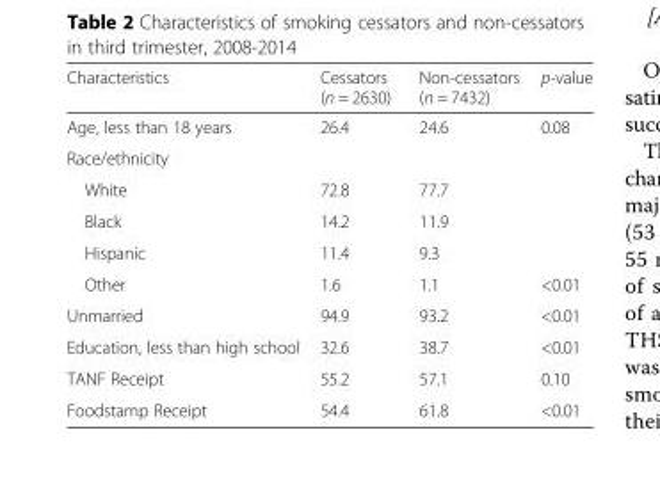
<table><thead><tr><td>Characteristics</td><td>Cessators (n = 2630)</td><td>Non-cessators (n = 7432)</td><td>p-value</td></tr></thead><tbody><tr><td>Age, less than 18 years</td><td>26.4</td><td>24.6</td><td>0.08</td></tr><tr><td colspan="4">Race/ethnicity</td></tr><tr><td>White</td><td>72.8</td><td>77.7</td><td></td></tr><tr><td>Black</td><td>14.2</td><td>11.9</td><td></td></tr><tr><td>Hispanic</td><td>11.4</td><td>9.3</td><td></td></tr><tr><td>Other</td><td>1.6</td><td>1.1</td><td>&lt;0.01</td></tr><tr><td>Unmarried</td><td>94.9</td><td>93.2</td><td>&lt;0.01</td></tr><tr><td>Education, less than high school</td><td>32.6</td><td>38.7</td><td>&lt;0.01</td></tr><tr><td>TANF Receipt</td><td>55.2</td><td>57.1</td><td>0.10</td></tr><tr><td>Foodstamp Receipt</td><td>54.4</td><td>61.8</td><td>&lt;0.01</td></tr></tbody></table>